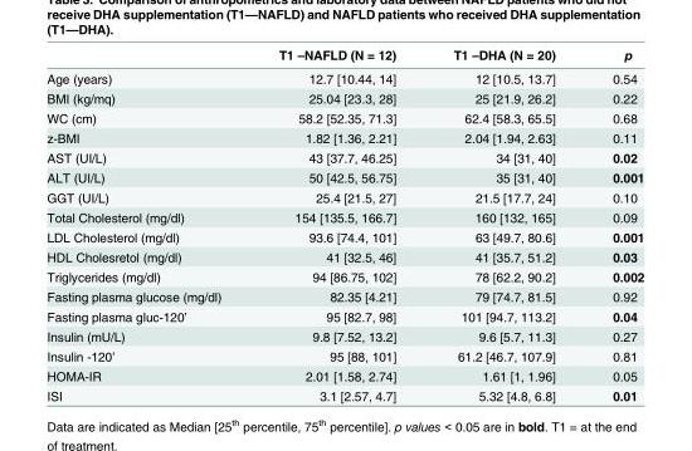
<table><thead><tr><td></td><td>T1 –NAFLD (N = 12)</td><td>T1 –DHA (N = 20)</td><td>p</td></tr></thead><tbody><tr><td>Age (years)</td><td>12.7 [10.44, 14]</td><td>12 [10.5, 13.7]</td><td>0.54</td></tr><tr><td>BMI (kg/mq)</td><td>25.04 [23.3, 28]</td><td>25 [21.9, 26.2]</td><td>0.22</td></tr><tr><td>WC (cm)</td><td>58.2 [52.35, 71.3]</td><td>62.4 [58.3, 65.5]</td><td>0.68</td></tr><tr><td>z-BMI</td><td>1.82 [1.36, 2.21]</td><td>2.04 [1.94, 2.63]</td><td>0.11</td></tr><tr><td>AST (UI/L)</td><td>43 [37.7, 46.25]</td><td>34 [31, 40]</td><td>0.02</td></tr><tr><td>ALT (UI/L)</td><td>50 [42.5, 56.75]</td><td>35 [31, 40]</td><td>0.001</td></tr><tr><td>GGT (UI/L)</td><td>25.4 [21.5, 27]</td><td>21.5 [17.7, 24]</td><td>0.10</td></tr><tr><td>Total Cholesterol (mg/dl)</td><td>154 [135.5, 166.7]</td><td>160 [132, 165]</td><td>0.09</td></tr><tr><td>LDL Cholesterol (mg/dl)</td><td>93.6 [74.4, 101]</td><td>63 [49.7, 80.6]</td><td>0.001</td></tr><tr><td>HDL Cholesretol (mg/dl)</td><td>41 [32.5, 46]</td><td>41 [35.7, 51.2]</td><td>0.03</td></tr><tr><td>Triglycerides (mg/dl)</td><td>94 [86.75, 102]</td><td>78 [62.2, 90.2]</td><td>0.002</td></tr><tr><td>Fasting plasma glucose (mg/dl)</td><td>82.35 [4.21]</td><td>79 [74.7, 81.5]</td><td>0.92</td></tr><tr><td>Fasting plasma gluc-120’</td><td>95 [82.7, 98]</td><td>101 [94.7, 113.2]</td><td>0.04</td></tr><tr><td>Insulin (mU/L)</td><td>9.8 [7.52, 13.2]</td><td>9.6 [5.7, 11.3]</td><td>0.27</td></tr><tr><td>Insulin -120’</td><td>95 [88, 101]</td><td>61.2 [46.7, 107.9]</td><td>0.81</td></tr><tr><td>HOMA-IR</td><td>2.01 [1.58, 2.74]</td><td>1.61 [1, 1.96]</td><td>0.05</td></tr><tr><td>ISI</td><td>3.1 [2.57, 4.7]</td><td>5.32 [4.8, 6.8]</td><td>0.01</td></tr></tbody></table>